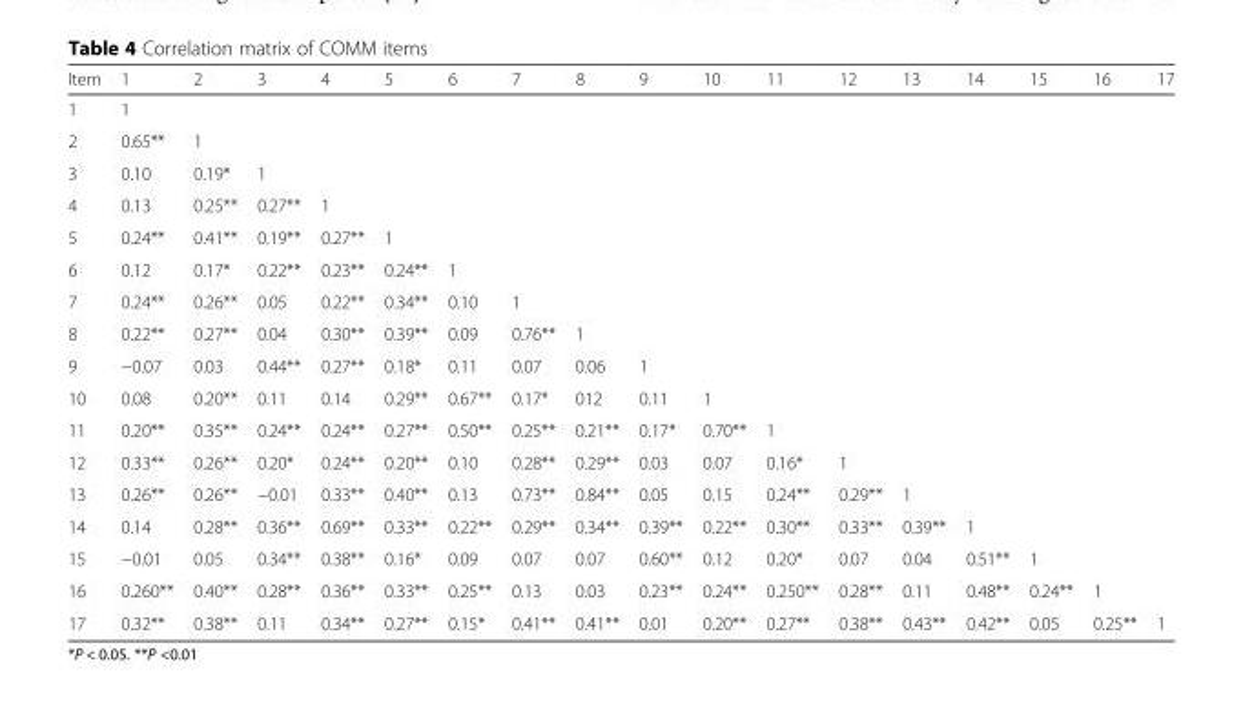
<table><thead><tr><td>Item</td><td>1</td><td>2</td><td>3</td><td>4</td><td>5</td><td>6</td><td>7</td><td>8</td><td>9</td><td>10</td><td>11</td><td>12</td><td>13</td><td>14</td><td>15</td><td>16</td><td>17</td></tr></thead><tbody><tr><td>1</td><td>1</td><td></td><td></td><td></td><td></td><td></td><td></td><td></td><td></td><td></td><td></td><td></td><td></td><td></td><td></td><td></td><td></td></tr><tr><td>2</td><td>0.65**</td><td>1</td><td></td><td></td><td></td><td></td><td></td><td></td><td></td><td></td><td></td><td></td><td></td><td></td><td></td><td></td><td></td></tr><tr><td>3</td><td>0.10</td><td>0.19*</td><td>1</td><td></td><td></td><td></td><td></td><td></td><td></td><td></td><td></td><td></td><td></td><td></td><td></td><td></td><td></td></tr><tr><td>4</td><td>0.13</td><td>0.25**</td><td>0.27**</td><td>1</td><td></td><td></td><td></td><td></td><td></td><td></td><td></td><td></td><td></td><td></td><td></td><td></td><td></td></tr><tr><td>5</td><td>0.24**</td><td>0.41**</td><td>0.19**</td><td>0.27**</td><td>1</td><td></td><td></td><td></td><td></td><td></td><td></td><td></td><td></td><td></td><td></td><td></td><td></td></tr><tr><td>6</td><td>0.12</td><td>0.17*</td><td>0.22**</td><td>0.23**</td><td>0.24**</td><td>1</td><td></td><td></td><td></td><td></td><td></td><td></td><td></td><td></td><td></td><td></td><td></td></tr><tr><td>7</td><td>0.24**</td><td>0.26**</td><td>0.05</td><td>0.22**</td><td>0.34**</td><td>0.10</td><td>1</td><td></td><td></td><td></td><td></td><td></td><td></td><td></td><td></td><td></td><td></td></tr><tr><td>8</td><td>0.22**</td><td>0.27**</td><td>0.04</td><td>0.30**</td><td>0.39**</td><td>0.09</td><td>0.76**</td><td>1</td><td></td><td></td><td></td><td></td><td></td><td></td><td></td><td></td><td></td></tr><tr><td>9</td><td>−0.07</td><td>0.03</td><td>0.44**</td><td>0.27**</td><td>0.18*</td><td>0.11</td><td>0.07</td><td>0.06</td><td>1</td><td></td><td></td><td></td><td></td><td></td><td></td><td></td><td></td></tr><tr><td>10</td><td>0.08</td><td>0.20**</td><td>0.11</td><td>0.14</td><td>0.29**</td><td>0.67**</td><td>0.17*</td><td>012</td><td>0.11</td><td>1</td><td></td><td></td><td></td><td></td><td></td><td></td><td></td></tr><tr><td>11</td><td>0.20**</td><td>0.35**</td><td>0.24**</td><td>0.24**</td><td>0.27**</td><td>0.50**</td><td>0.25**</td><td>0.21**</td><td>0.17*</td><td>0.70**</td><td>1</td><td></td><td></td><td></td><td></td><td></td><td></td></tr><tr><td>12</td><td>0.33**</td><td>0.26**</td><td>0.20*</td><td>0.24**</td><td>0.20**</td><td>0.10</td><td>0.28**</td><td>0.29**</td><td>0.03</td><td>0.07</td><td>0.16*</td><td>1</td><td></td><td></td><td></td><td></td><td></td></tr><tr><td>13</td><td>0.26**</td><td>0.26**</td><td>−0.01</td><td>0.33**</td><td>0.40**</td><td>0.13</td><td>0.73**</td><td>0.84**</td><td>0.05</td><td>0.15</td><td>0.24**</td><td>0.29**</td><td>1</td><td></td><td></td><td></td><td></td></tr><tr><td>14</td><td>0.14</td><td>0.28**</td><td>0.36**</td><td>0.69**</td><td>0.33**</td><td>0.22**</td><td>0.29**</td><td>0.34**</td><td>0.39**</td><td>0.22**</td><td>0.30**</td><td>0.33**</td><td>0.39**</td><td>1</td><td></td><td></td><td></td></tr><tr><td>15</td><td>−0.01</td><td>0.05</td><td>0.34**</td><td>0.38**</td><td>0.16*</td><td>0.09</td><td>0.07</td><td>0.07</td><td>0.60**</td><td>0.12</td><td>0.20*</td><td>0.07</td><td>0.04</td><td>0.51**</td><td>1</td><td></td><td></td></tr><tr><td>16</td><td>0.260**</td><td>0.40**</td><td>0.28**</td><td>0.36**</td><td>0.33**</td><td>0.25**</td><td>0.13</td><td>0.03</td><td>0.23**</td><td>0.24**</td><td>0.250**</td><td>0.28**</td><td>0.11</td><td>0.48**</td><td>0.24**</td><td>1</td><td></td></tr><tr><td>17</td><td>0.32**</td><td>0.38**</td><td>0.11</td><td>0.34**</td><td>0.27**</td><td>0.15*</td><td>0.41**</td><td>0.41**</td><td>0.01</td><td>0.20**</td><td>0.27**</td><td>0.38**</td><td>0.43**</td><td>0.42**</td><td>0.05</td><td>0.25**</td><td>1</td></tr></tbody></table>